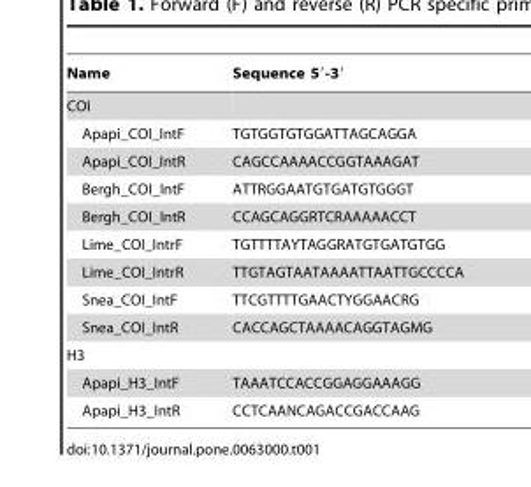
<table><thead><tr><td>Name</td><td>Sequence 5′-3′</td></tr></thead><tbody><tr><td colspan="2">COI</td></tr><tr><td>Apapi_COI_IntF</td><td>TGTGGTGTGGATTAGCAGGA</td></tr><tr><td>Apapi_COI_IntR</td><td>CAGCCAAAACCGGTAAAGAT</td></tr><tr><td>Bergh_COI_IntF</td><td>ATTRGGAATGTGATGTGGGT</td></tr><tr><td>Bergh_COI_IntR</td><td>CCAGCAGGRTCRAAAAACCT</td></tr><tr><td>Lime_COI_IntrF</td><td>TGTTTTAYTAGGRATGTGATGTGG</td></tr><tr><td>Lime_COI_IntrR</td><td>TTGTAGTAATAAAATTAATTGCCCCA</td></tr><tr><td>Snea_COI_IntF</td><td>TTCGTTTTGAACTYGGAACRG</td></tr><tr><td>Snea_COI_IntR</td><td>CACCAGCTAAAACAGGTAGMG</td></tr><tr><td colspan="2">H3</td></tr><tr><td>Apapi_H3_IntF</td><td>TAAATCCACCGGAGGAAAGG</td></tr><tr><td>Apapi_H3_IntR</td><td>CCTCAANCAGACCGACCAAG</td></tr></tbody></table>